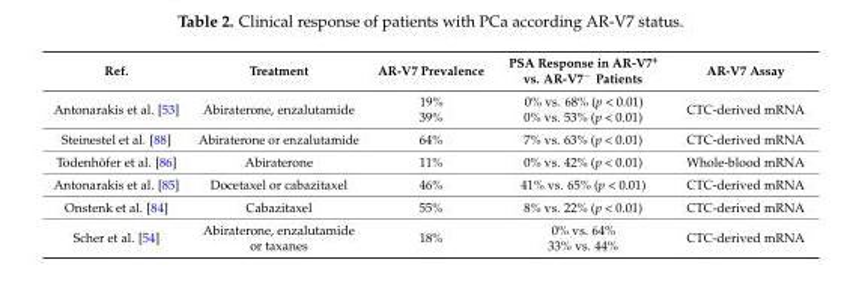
<table><thead><tr><td>Ref.</td><td>Treatment</td><td>AR-V7 Prevalence</td><td>PSA Response in AR-V7<sup>+</sup> vs. AR-V7<sup>−</sup> Patients</td><td>AR-V7 Assay</td></tr></thead><tbody><tr><td>Antonarakis et al. [53]</td><td>Abiraterone, enzalutamide</td><td>19% 39%</td><td>0% vs. 68% (p &lt; 0.01) 0% vs. 53% (p &lt; 0.01)</td><td>CTC-derived mRNA</td></tr><tr><td>Steinestel et al. [88]</td><td>Abiraterone or enzalutamide</td><td>64%</td><td>7% vs. 63% (p &lt; 0.01)</td><td>CTC-derived mRNA</td></tr><tr><td>Todenhöfer et al. [86]</td><td>Abiraterone</td><td>11%</td><td>0% vs. 42% (p &lt; 0.01)</td><td>Whole-blood mRNA</td></tr><tr><td>Antonarakis et al. [85]</td><td>Docetaxel or cabazitaxel</td><td>46%</td><td>41% vs. 65% (p &lt; 0.01)</td><td>CTC-derived mRNA</td></tr><tr><td>Onstenk et al. [84]</td><td>Cabazitaxel</td><td>55%</td><td>8% vs. 22% (p &lt; 0.01)</td><td>CTC-derived mRNA</td></tr><tr><td>Scher et al. [54]</td><td>Abiraterone, enzalutamide or taxanes</td><td>18%</td><td>0% vs. 64% 33% vs. 44%</td><td>CTC-derived mRNA</td></tr></tbody></table>